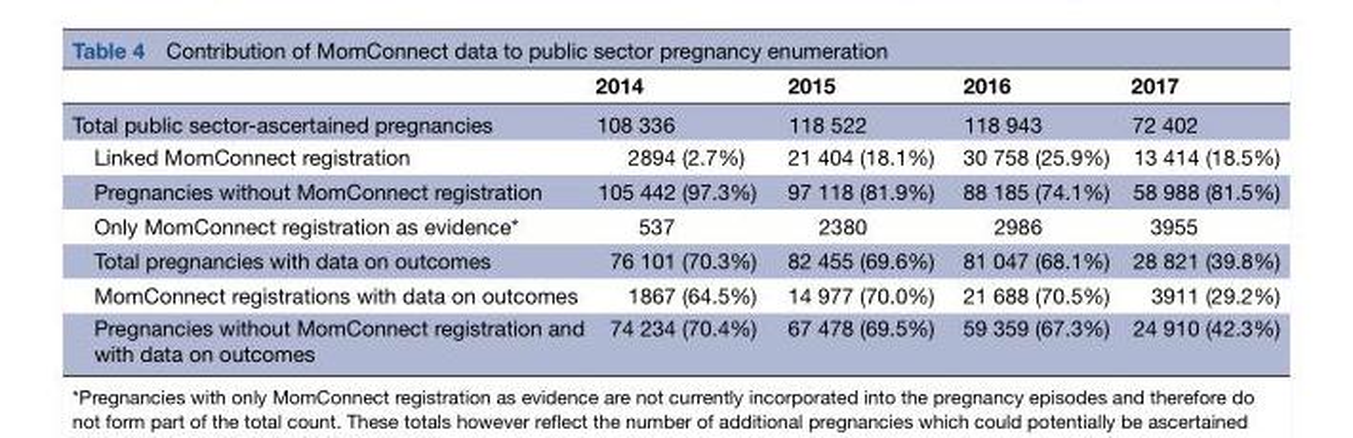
<table><thead><tr><td></td><td>2014</td><td>2015</td><td>2016</td><td>2017</td></tr></thead><tbody><tr><td>Total public sector-ascertained pregnancies</td><td>108 336</td><td>118 522</td><td>118 943</td><td>72 402</td></tr><tr><td>Linked MomConnect registration</td><td>2894 (2.7%)</td><td>21 404 (18.1%)</td><td>30 758 (25.9%)</td><td>13 414 (18.5%)</td></tr><tr><td>Pregnancies without MomConnect registration</td><td>105 442 (97.3%)</td><td>97 118 (81.9%)</td><td>88 185 (74.1%)</td><td>58 988 (81.5%)</td></tr><tr><td>Only MomConnect registration as evidence*</td><td>537</td><td>2380</td><td>2986</td><td>3955</td></tr><tr><td>Total pregnancies with data on outcomes</td><td>76 101 (70.3%)</td><td>82 455 (69.6%)</td><td>81 047 (68.1%)</td><td>28 821 (39.8%)</td></tr><tr><td>MomConnect registrations with data on outcomes</td><td>1867 (64.5%)</td><td>14 977 (70.0%)</td><td>21 688 (70.5%)</td><td>3911 (29.2%)</td></tr><tr><td>Pregnancies without MomConnect registration and with data on outcomes</td><td>74 234 (70.4%)</td><td>67 478 (69.5%)</td><td>59 359 (67.3%)</td><td>24 910 (42.3%)</td></tr></tbody></table>